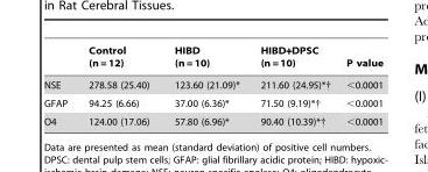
<table><thead><tr><td></td><td>Control (n = 12)</td><td>HIBD (n = 10)</td><td>HIBD+DPSC (n = 10)</td><td>P value</td></tr></thead><tbody><tr><td>NSE</td><td>278.58 (25.40)</td><td>123.60 (21.09)*</td><td>211.60 (24.95)*†</td><td>&lt;0.0001</td></tr><tr><td>GFAP</td><td>94.25 (6.66)</td><td>37.00 (6.36)*</td><td>71.50 (9.19)*†</td><td>&lt;0.0001</td></tr><tr><td>O4</td><td>124.00 (17.06)</td><td>57.80 (6.96)*</td><td>90.40 (10.39)*†</td><td>&lt;0.0001</td></tr></tbody></table>